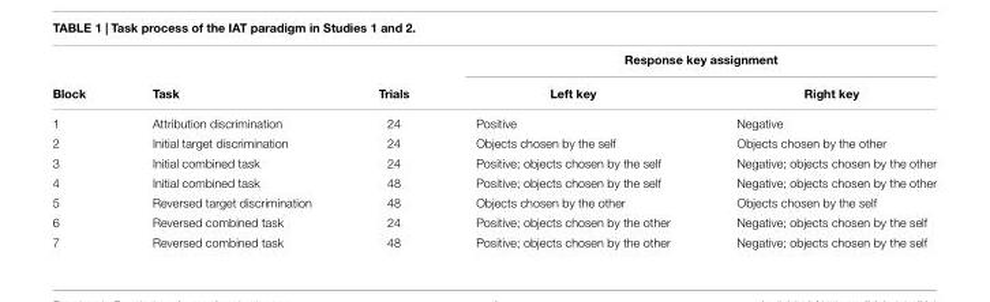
<table><thead><tr><td rowspan="2">Block</td><td rowspan="2">Task</td><td rowspan="2">Trials</td><td colspan="2">Response key assignment</td></tr><tr><td>Left key</td><td>Right key</td></tr></thead><tbody><tr><td>1</td><td>Attribution discrimination</td><td>24</td><td>Positive</td><td>Negative</td></tr><tr><td>2</td><td>Initial target discrimination</td><td>24</td><td>Objects chosen by the self</td><td>Objects chosen by the other</td></tr><tr><td>3</td><td>Initial combined task</td><td>24</td><td>Positive; objects chosen by the self</td><td>Negative; objects chosen by the other</td></tr><tr><td>4</td><td>Initial combined task</td><td>48</td><td>Positive; objects chosen by the self</td><td>Negative; objects chosen by the other</td></tr><tr><td>5</td><td>Reversed target discrimination</td><td>48</td><td>Objects chosen by the other</td><td>Objects chosen by the self</td></tr><tr><td>6</td><td>Reversed combined task</td><td>24</td><td>Positive; objects chosen by the other</td><td>Negative; objects chosen by the self</td></tr><tr><td>7</td><td>Reversed combined task</td><td>48</td><td>Positive; objects chosen by the other</td><td>Negative; objects chosen by the self</td></tr></tbody></table>